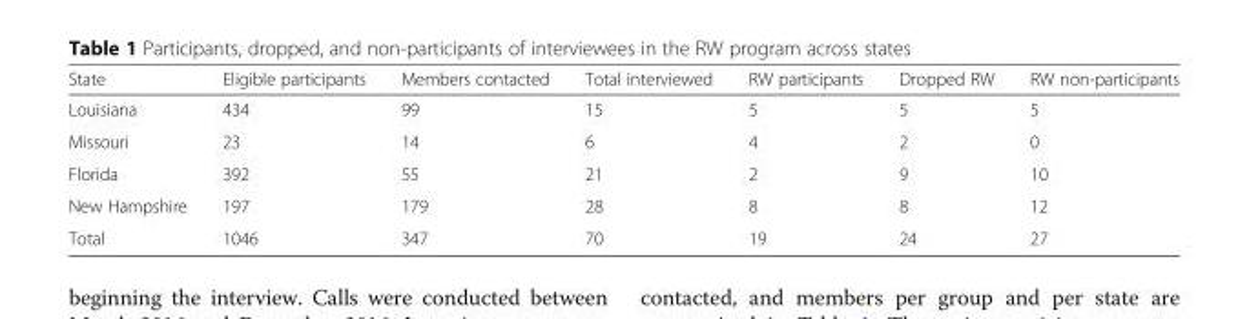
<table><thead><tr><td>State</td><td>Eligible participants</td><td>Members contacted</td><td>Total interviewed</td><td>RW participants</td><td>Dropped RW</td><td>RW non-participants</td></tr></thead><tbody><tr><td>Louisiana</td><td>434</td><td>99</td><td>15</td><td>5</td><td>5</td><td>5</td></tr><tr><td>Missouri</td><td>23</td><td>14</td><td>6</td><td>4</td><td>2</td><td>0</td></tr><tr><td>Florida</td><td>392</td><td>55</td><td>21</td><td>2</td><td>9</td><td>10</td></tr><tr><td>New Hampshire</td><td>197</td><td>179</td><td>28</td><td>8</td><td>8</td><td>12</td></tr><tr><td>Total</td><td>1046</td><td>347</td><td>70</td><td>19</td><td>24</td><td>27</td></tr></tbody></table>